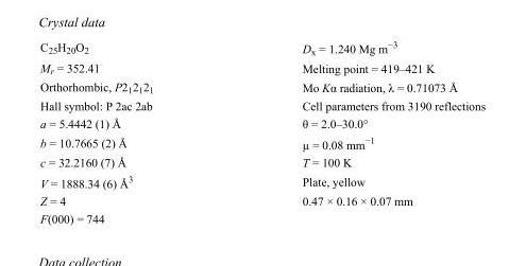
<table><tbody><tr><td>C<sub>25</sub>H<sub>20</sub>O<sub>2</sub></td><td>D<sub>x</sub> = 1.240 Mg m<sup>−3</sup></td></tr><tr><td>M<sub>r</sub> = 352.41</td><td>Melting point = 419–421 K</td></tr><tr><td>Orthorhombic, P2<sub>1</sub>2<sub>1</sub>2<sub>1</sub></td><td>Mo Kα radiation, λ = 0.71073 Å</td></tr><tr><td>Hall symbol: P 2ac 2ab</td><td>Cell parameters from 3190 reflections</td></tr><tr><td>a = 5.4442 (1) Å</td><td>θ = 2.0–30.0°</td></tr><tr><td>b = 10.7665 (2) Å</td><td>µ = 0.08 mm<sup>−1</sup></td></tr><tr><td>c = 32.2160 (7) Å</td><td>T = 100 K</td></tr><tr><td>V = 1888.34 (6) Å<sup>3</sup></td><td>Plate, yellow</td></tr><tr><td>Z = 4</td><td>0.47 × 0.16 × 0.07 mm</td></tr><tr><td>F(000) = 744</td><td></td></tr></tbody></table>